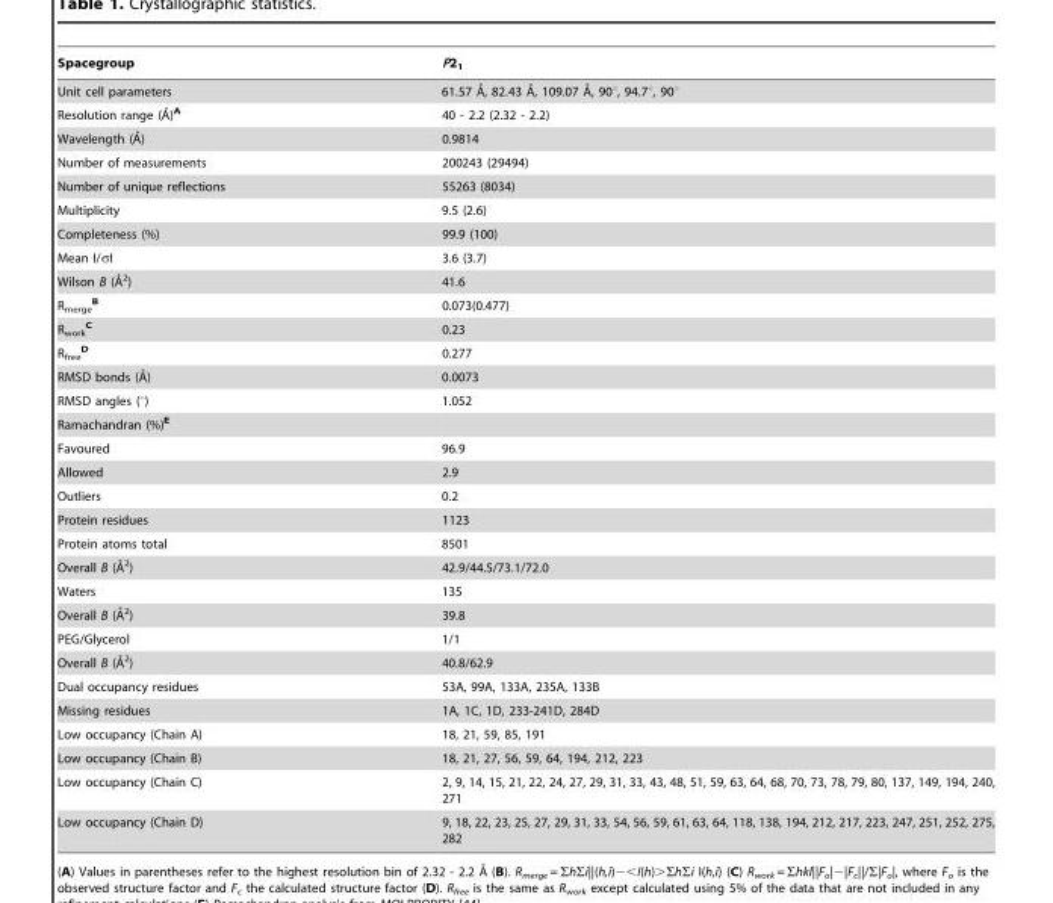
<table><thead><tr><td>Spacegroup</td><td>P2<sub>1</sub></td></tr></thead><tbody><tr><td>Unit cell parameters</td><td>61.57 A˚, 82.43 A˚, 109.07 A˚, 90u, 94.7u, 90u</td></tr><tr><td>Resolution range (A˚)A</td><td>40 - 2.2 (2.32 - 2.2)</td></tr><tr><td>Wavelength (A˚)</td><td>0.9814</td></tr><tr><td>Number of measurements</td><td>200243 (29494)</td></tr><tr><td>Number of unique reflections</td><td>55263 (8034)</td></tr><tr><td>Multiplicity</td><td>9.5 (2.6)</td></tr><tr><td>Completeness (%)</td><td>99.9 (100)</td></tr><tr><td>Mean I/σI</td><td>3.6 (3.7)</td></tr><tr><td>Wilson B (A˚ 2)</td><td>41.6</td></tr><tr><td>R<sub>merge</sub> <sup>B</sup></td><td>0.073(0.477)</td></tr><tr><td>R<sub>work</sub> <sup>C</sup></td><td>0.23</td></tr><tr><td>R<sub>free</sub> <sup>D</sup></td><td>0.277</td></tr><tr><td>RMSD bonds (A˚)</td><td>0.0073</td></tr><tr><td>RMSD angles (°)</td><td>1.052</td></tr><tr><td colspan="2">Ramachandran (%)<sup>E</sup></td></tr><tr><td>Favoured</td><td>96.9</td></tr><tr><td>Allowed</td><td>2.9</td></tr><tr><td>Outliers</td><td>0.2</td></tr><tr><td>Protein residues</td><td>1123</td></tr><tr><td>Protein atoms total</td><td>8501</td></tr><tr><td>Overall B (A˚ 2)</td><td>42.9/44.5/73.1/72.0</td></tr><tr><td>Waters</td><td>135</td></tr><tr><td>Overall B (A˚ 2)</td><td>39.8</td></tr><tr><td>PEG/Glycerol</td><td>1/1</td></tr><tr><td>Overall B (A˚ 2)</td><td>40.8/62.9</td></tr><tr><td>Dual occupancy residues</td><td>53A, 99A, 133A, 235A, 133B</td></tr><tr><td>Missing residues</td><td>1A, 1C, 1D, 233-241D, 284D</td></tr><tr><td>Low occupancy (Chain A)</td><td>18, 21, 59, 85, 191</td></tr><tr><td>Low occupancy (Chain B)</td><td>18, 21, 27, 56, 59, 64, 194, 212, 223</td></tr><tr><td>Low occupancy (Chain C)</td><td>2, 9, 14, 15, 21, 22, 24, 27, 29, 31, 33, 43, 48, 51, 59, 63, 64, 68, 70, 73, 78, 79, 80, 137, 149, 194, 240, 271</td></tr><tr><td>Low occupancy (Chain D)</td><td>9, 18, 22, 23, 25, 27, 29, 31, 33, 54, 56, 59, 61, 63, 64, 118, 138, 194, 212, 217, 223, 247, 251, 252, 275, 282</td></tr></tbody></table>